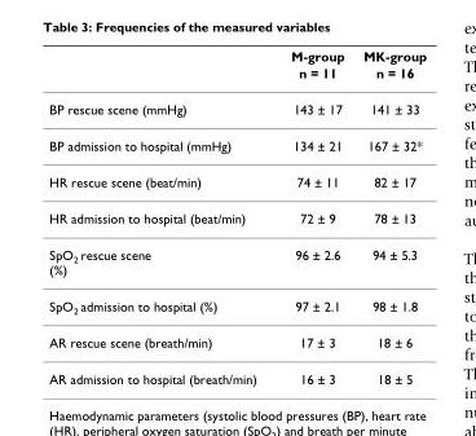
<table><thead><tr><td rowspan="2"></td><td rowspan="2">M-group n = 11</td><td rowspan="2">MK-group n = 16</td></tr><tr></tr></thead><tbody><tr><td>BP rescue scene (mmHg)</td><td>143 ± 17</td><td>141 ± 33</td></tr><tr><td>BP admission to hospital (mmHg)</td><td>134 ± 21</td><td>167 ± 32*</td></tr><tr><td>HR rescue scene (beat/min)</td><td>74 ± 11</td><td>82 ± 17</td></tr><tr><td>HR admission to hospital (beat/min)</td><td>72 ± 9</td><td>78 ± 13</td></tr><tr><td>SpO<sub>2</sub> rescue scene (%)</td><td>96 ± 2.6</td><td>94 ± 5.3</td></tr><tr><td>SpO<sub>2</sub> admission to hospital (%)</td><td>97 ± 2.1</td><td>98 ± 1.8</td></tr><tr><td>AR rescue scene (breath/min)</td><td>17 ± 3</td><td>18 ± 6</td></tr><tr><td>AR admission to hospital (breath/min)</td><td>16 ± 3</td><td>18 ± 5</td></tr></tbody></table>